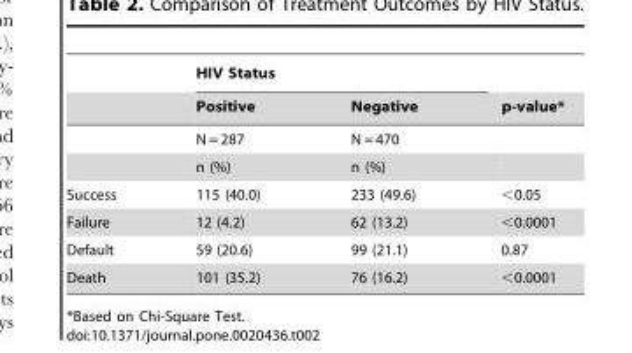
<table><thead><tr><td rowspan="2"></td><td colspan="2">HIV Status</td><td rowspan="2">p-value*</td></tr><tr><td>Positive</td><td>Negative</td></tr></thead><tbody><tr><td></td><td>N = 287</td><td>N = 470</td><td></td></tr><tr><td></td><td>n (%)</td><td>n (%)</td><td></td></tr><tr><td>Success</td><td>115 (40.0)</td><td>233 (49.6)</td><td>&lt;0.05</td></tr><tr><td>Failure</td><td>12 (4.2)</td><td>62 (13.2)</td><td>&lt;0.0001</td></tr><tr><td>Default</td><td>59 (20.6)</td><td>99 (21.1)</td><td>0.87</td></tr><tr><td>Death</td><td>101 (35.2)</td><td>76 (16.2)</td><td>&lt;0.0001</td></tr></tbody></table>